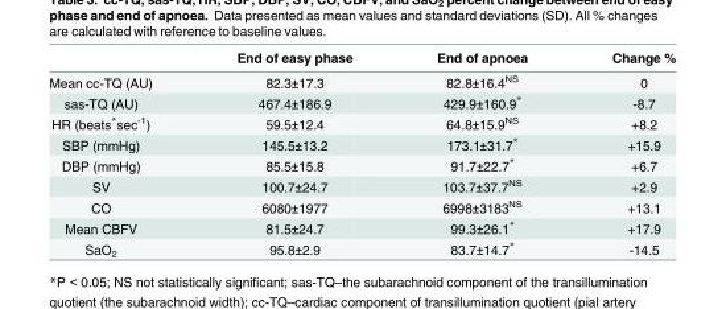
<table><thead><tr><td></td><td>End of easy phase</td><td>End of apnoea</td><td>Change %</td></tr></thead><tbody><tr><td>Mean cc-TQ (AU)</td><td>82.3±17.3</td><td>82.8±16.4<sup>NS</sup></td><td>0</td></tr><tr><td>sas-TQ (AU)</td><td>467.4±186.9</td><td>429.9±160.9*</td><td>-8.7</td></tr><tr><td>HR (beats*sec<sup>-1</sup>)</td><td>59.5±12.4</td><td>64.8±15.9<sup>NS</sup></td><td>+8.2</td></tr><tr><td>SBP (mmHg)</td><td>145.5±13.2</td><td>173.1±31.7*</td><td>+15.9</td></tr><tr><td>DBP (mmHg)</td><td>85.5±15.8</td><td>91.7±22.7*</td><td>+6.7</td></tr><tr><td>SV</td><td>100.7±24.7</td><td>103.7±37.7<sup>NS</sup></td><td>+2.9</td></tr><tr><td>CO</td><td>6080±1977</td><td>6998±3183<sup>NS</sup></td><td>+13.1</td></tr><tr><td>Mean CBFV</td><td>81.5±24.7</td><td>99.3±26.1*</td><td>+17.9</td></tr><tr><td>SaO<sub>2</sub></td><td>95.8±2.9</td><td>83.7±14.7*</td><td>-14.5</td></tr></tbody></table>